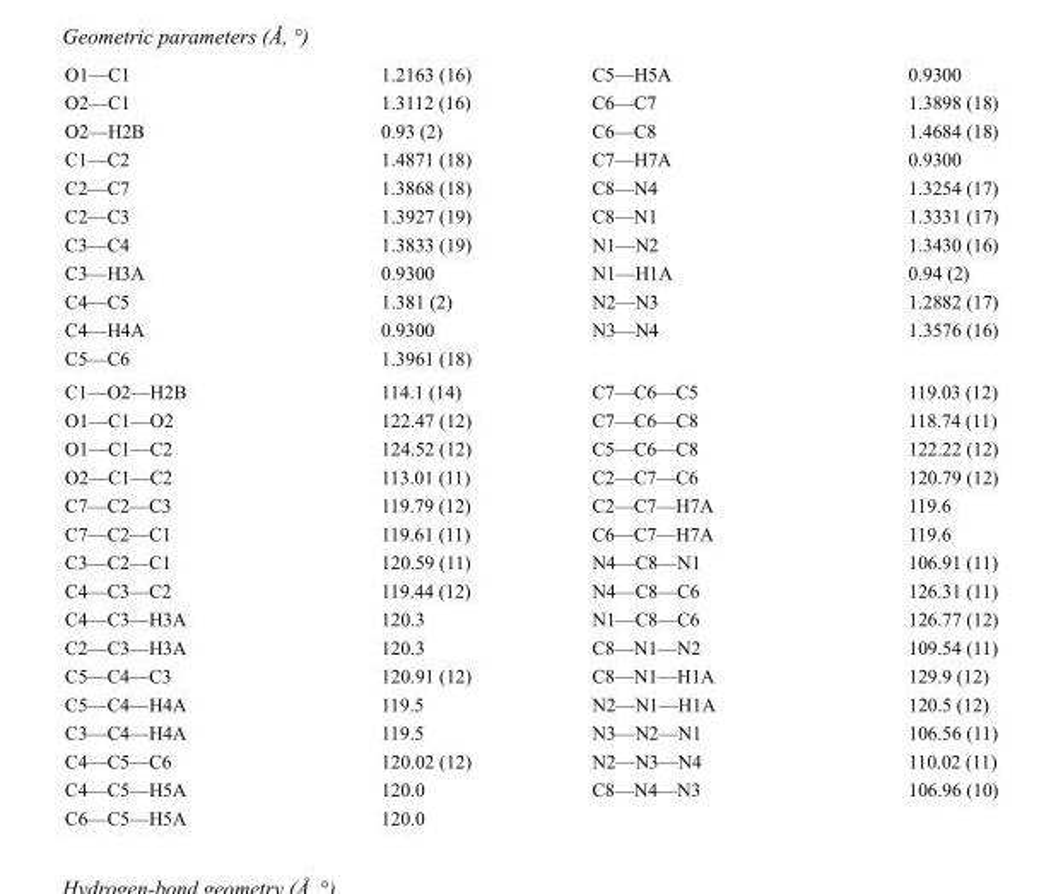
<table><tbody><tr><td>O1—C1</td><td>1.2163 (16)</td><td>C5—H5A</td><td>0.9300</td></tr><tr><td>O2—C1</td><td>1.3112 (16)</td><td>C6—C7</td><td>1.3898 (18)</td></tr><tr><td>O2—H2B</td><td>0.93 (2)</td><td>C6—C8</td><td>1.4684 (18)</td></tr><tr><td>C1—C2</td><td>1.4871 (18)</td><td>C7—H7A</td><td>0.9300</td></tr><tr><td>C2—C7</td><td>1.3868 (18)</td><td>C8—N4</td><td>1.3254 (17)</td></tr><tr><td>C2—C3</td><td>1.3927 (19)</td><td>C8—N1</td><td>1.3331 (17)</td></tr><tr><td>C3—C4</td><td>1.3833 (19)</td><td>N1—N2</td><td>1.3430 (16)</td></tr><tr><td>C3—H3A</td><td>0.9300</td><td>N1—H1A</td><td>0.94 (2)</td></tr><tr><td>C4—C5</td><td>1.381 (2)</td><td>N2—N3</td><td>1.2882 (17)</td></tr><tr><td>C4—H4A</td><td>0.9300</td><td>N3—N4</td><td>1.3576 (16)</td></tr><tr><td>C5—C6</td><td>1.3961 (18)</td><td></td><td></td></tr><tr><td>C1—O2—H2B</td><td>114.1 (14)</td><td>C7—C6—C5</td><td>119.03 (12)</td></tr><tr><td>O1—C1—O2</td><td>122.47 (12)</td><td>C7—C6—C8</td><td>118.74 (11)</td></tr><tr><td>O1—C1—C2</td><td>124.52 (12)</td><td>C5—C6—C8</td><td>122.22 (12)</td></tr><tr><td>O2—C1—C2</td><td>113.01 (11)</td><td>C2—C7—C6</td><td>120.79 (12)</td></tr><tr><td>C7—C2—C3</td><td>119.79 (12)</td><td>C2—C7—H7A</td><td>119.6</td></tr><tr><td>C7—C2—C1</td><td>119.61 (11)</td><td>C6—C7—H7A</td><td>119.6</td></tr><tr><td>C3—C2—C1</td><td>120.59 (11)</td><td>N4—C8—N1</td><td>106.91 (11)</td></tr><tr><td>C4—C3—C2</td><td>119.44 (12)</td><td>N4—C8—C6</td><td>126.31 (11)</td></tr><tr><td>C4—C3—H3A</td><td>120.3</td><td>N1—C8—C6</td><td>126.77 (12)</td></tr><tr><td>C2—C3—H3A</td><td>120.3</td><td>C8—N1—N2</td><td>109.54 (11)</td></tr><tr><td>C5—C4—C3</td><td>120.91 (12)</td><td>C8—N1—H1A</td><td>129.9 (12)</td></tr><tr><td>C5—C4—H4A</td><td>119.5</td><td>N2—N1—H1A</td><td>120.5 (12)</td></tr><tr><td>C3—C4—H4A</td><td>119.5</td><td>N3—N2—N1</td><td>106.56 (11)</td></tr><tr><td>C4—C5—C6</td><td>120.02 (12)</td><td>N2—N3—N4</td><td>110.02 (11)</td></tr><tr><td>C4—C5—H5A</td><td>120.0</td><td>C8—N4—N3</td><td>106.96 (10)</td></tr><tr><td>C6—C5—H5A</td><td>120.0</td><td></td><td></td></tr></tbody></table>